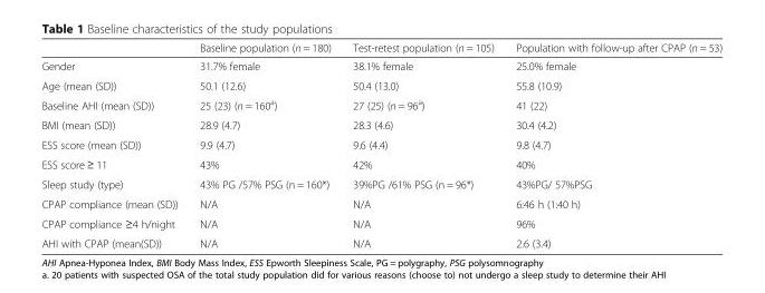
<table><thead><tr><td></td><td>Baseline population (n = 180)</td><td>Test-retest population (n = 105)</td><td>Population with follow-up after CPAP (n = 53)</td></tr></thead><tbody><tr><td>Gender</td><td>31.7% female</td><td>38.1% female</td><td>25.0% female</td></tr><tr><td>Age (mean (SD))</td><td>50.1 (12.6)</td><td>50.4 (13.0)</td><td>55.8 (10.9)</td></tr><tr><td>Baseline AHI (mean (SD))</td><td>25 (23) (n = 160<sup>a</sup>)</td><td>27 (25) (n = 96<sup>a</sup>)</td><td>41 (22)</td></tr><tr><td>BMI (mean (SD))</td><td>28.9 (4.7)</td><td>28.3 (4.6)</td><td>30.4 (4.2)</td></tr><tr><td>ESS score (mean (SD))</td><td>9.9 (4.7)</td><td>9.6 (4.4)</td><td>9.8 (4.7)</td></tr><tr><td>ESS score ≥ 11</td><td>43%</td><td>42%</td><td>40%</td></tr><tr><td>Sleep study (type)</td><td>43% PG /57% PSG (n = 160*)</td><td>39%PG /61% PSG (n = 96*)</td><td>43%PG/ 57%PSG</td></tr><tr><td>CPAP compliance (mean (SD))</td><td>N/A</td><td>N/A</td><td>6:46 h (1:40 h)</td></tr><tr><td>CPAP compliance ≥4 h/night</td><td>N/A</td><td>N/A</td><td>96%</td></tr><tr><td>AHI with CPAP (mean(SD))</td><td>N/A</td><td>N/A</td><td>2.6 (3.4)</td></tr></tbody></table>